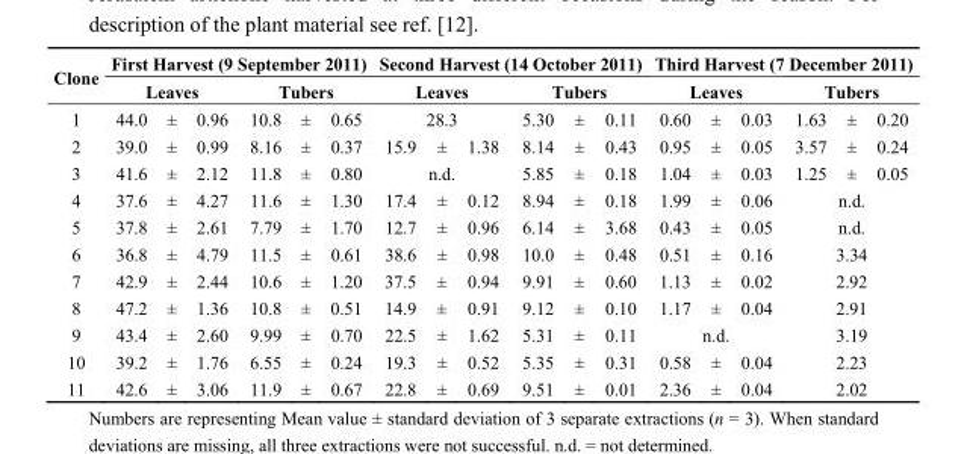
<table><thead><tr><td rowspan="4">Clone 1 2</td><td colspan="6">First Harvest (9 September 2011)</td><td colspan="6">Second Harvest (14 October 2011)</td><td colspan="6">Third Harvest (7 December 2011)</td></tr><tr><td colspan="3">Leaves</td><td colspan="3">Tubers</td><td rowspan="2" colspan="3">Leaves 28.3</td><td colspan="3">Tubers</td><td colspan="3">Leaves</td><td colspan="3">Tubers</td></tr><tr><td rowspan="2">44.0 39.0</td><td rowspan="2">± ±</td><td rowspan="2">0.96 0.99</td><td rowspan="2">10.8 8.16</td><td rowspan="2">± ±</td><td rowspan="2">0.65 0.37</td><td rowspan="2">5.30 8.14</td><td rowspan="2">± ±</td><td rowspan="2">0.11 0.43</td><td rowspan="2">0.60 0.95</td><td rowspan="2">± ±</td><td rowspan="2">0.03 0.05</td><td rowspan="2">1.63 3.57</td><td rowspan="2">± ±</td><td rowspan="2">0.20 0.24</td></tr><tr><td>15.9</td><td>±</td><td>1.38</td></tr></thead><tbody><tr><td>3</td><td>41.6</td><td>±</td><td>2.12</td><td>11.8</td><td>±</td><td>0.80</td><td colspan="3">n.d.</td><td>5.85</td><td>±</td><td>0.18</td><td>1.04</td><td>±</td><td>0.03</td><td>1.25</td><td>±</td><td>0.05</td></tr><tr><td>4</td><td>37.6</td><td>±</td><td>4.27</td><td>11.6</td><td>±</td><td>1.30</td><td>17.4</td><td>±</td><td>0.12</td><td>8.94</td><td>±</td><td>0.18</td><td>1.99</td><td>±</td><td>0.06</td><td colspan="3">n.d.</td></tr><tr><td>5</td><td>37.8</td><td>±</td><td>2.61</td><td>7.79</td><td>±</td><td>1.70</td><td>12.7</td><td>±</td><td>0.96</td><td>6.14</td><td>±</td><td>3.68</td><td>0.43</td><td>±</td><td>0.05</td><td colspan="3">n.d.</td></tr><tr><td>6</td><td>36.8</td><td>±</td><td>4.79</td><td>11.5</td><td>±</td><td>0.61</td><td>38.6</td><td>±</td><td>0.98</td><td>10.0</td><td>±</td><td>0.48</td><td>0.51</td><td>±</td><td>0.16</td><td colspan="3">3.34</td></tr><tr><td>7</td><td>42.9</td><td>±</td><td>2.44</td><td>10.6</td><td>±</td><td>1.20</td><td>37.5</td><td>±</td><td>0.94</td><td>9.91</td><td>±</td><td>0.60</td><td>1.13</td><td>±</td><td>0.02</td><td colspan="3">2.92</td></tr><tr><td>8</td><td>47.2</td><td>±</td><td>1.36</td><td>10.8</td><td>±</td><td>0.51</td><td>14.9</td><td>±</td><td>0.91</td><td>9.12</td><td>±</td><td>0.10</td><td>1.17</td><td>±</td><td>0.04</td><td colspan="3">2.91</td></tr><tr><td>9</td><td>43.4</td><td>±</td><td>2.60</td><td>9.99</td><td>±</td><td>0.70</td><td>22.5</td><td>±</td><td>1.62</td><td>5.31</td><td>±</td><td>0.11</td><td colspan="3">n.d.</td><td colspan="3">3.19</td></tr><tr><td>10</td><td>39.2</td><td>±</td><td>1.76</td><td>6.55</td><td>±</td><td>0.24</td><td>19.3</td><td>±</td><td>0.52</td><td>5.35</td><td>±</td><td>0.31</td><td>0.58</td><td>±</td><td>0.04</td><td colspan="3">2.23</td></tr><tr><td>11</td><td>42.6</td><td>±</td><td>3.06</td><td>11.9</td><td>±</td><td>0.67</td><td>22.8</td><td>±</td><td>0.69</td><td>9.51</td><td>±</td><td>0.01</td><td>2.36</td><td>±</td><td>0.04</td><td colspan="3">2.02</td></tr></tbody></table>